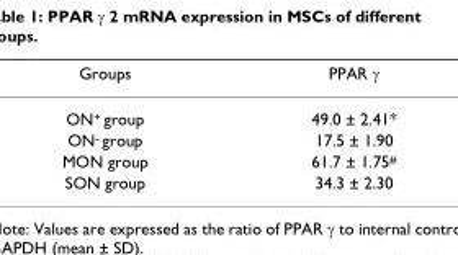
<table><thead><tr><td>Groups</td><td>PPAR γ</td></tr></thead><tbody><tr><td>ON<sup>+</sup> group</td><td>49.0 ± 2.41*</td></tr><tr><td>ON<sup>-</sup> group</td><td>17.5 ± 1.90</td></tr><tr><td>MON group</td><td>61.7 ± 1.75<sup>#</sup></td></tr><tr><td>SON group</td><td>34.3 ± 2.30</td></tr></tbody></table>